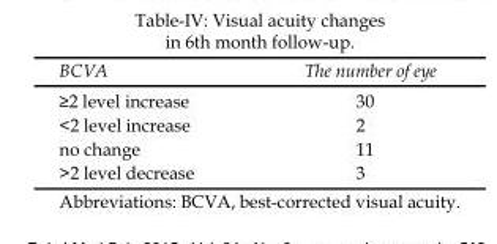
<table><thead><tr><td>BCVA</td><td>The number of eye</td></tr></thead><tbody><tr><td>≥2 level increase</td><td>30</td></tr><tr><td>&lt;2 level increase</td><td>2</td></tr><tr><td>no change</td><td>11</td></tr><tr><td>&gt;2 level decrease</td><td>3</td></tr></tbody></table>